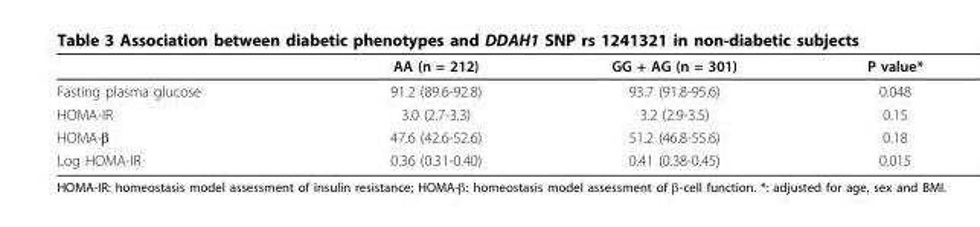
<table><thead><tr><td></td><td>AA (n = 212)</td><td>GG + AG (n = 301)</td><td>P value*</td></tr></thead><tbody><tr><td>Fasting plasma glucose</td><td>91.2 (89.6-92.8)</td><td>93.7 (91.8-95.6)</td><td>0.048</td></tr><tr><td>HOMA-IR</td><td>3.0 (2.7-3.3)</td><td>3.2 (2.9-3.5)</td><td>0.15</td></tr><tr><td>HOMA-β</td><td>47.6 (42.6-52.6)</td><td>51.2 (46.8-55.6)</td><td>0.18</td></tr><tr><td>Log HOMA-IR</td><td>0.36 (0.31-0.40)</td><td>0.41 (0.38-0.45)</td><td>0.015</td></tr></tbody></table>